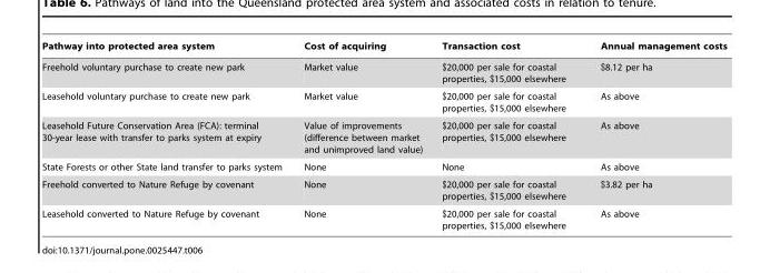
<table><thead><tr><td>Pathway into protected area system</td><td>Cost of acquiring</td><td>Transaction cost</td><td>Annual management costs</td></tr></thead><tbody><tr><td>Freehold voluntary purchase to create new park</td><td>Market value</td><td>$20,000 per sale for coastal properties, $15,000 elsewhere</td><td>$8.12 per ha</td></tr><tr><td>Leasehold voluntary purchase to create new park</td><td>Market value</td><td>$20,000 per sale for coastal properties, $15,000 elsewhere</td><td>As above</td></tr><tr><td>Leasehold Future Conservation Area (FCA): terminal 30-year lease with transfer to parks system at expiry</td><td>Value of improvements (difference between market and unimproved land value)</td><td>$20,000 per sale for coastal properties, $15,000 elsewhere</td><td>As above</td></tr><tr><td>State Forests or other State land transfer to parks system</td><td>None</td><td>None</td><td>As above</td></tr><tr><td>Freehold converted to Nature Refuge by covenant</td><td>None</td><td>$20,000 per sale for coastal properties, $15,000 elsewhere</td><td>$3.82 per ha</td></tr><tr><td>Leasehold converted to Nature Refuge by covenant</td><td>None</td><td>$20,000 per sale for coastal properties, $15,000 elsewhere</td><td>As above</td></tr></tbody></table>